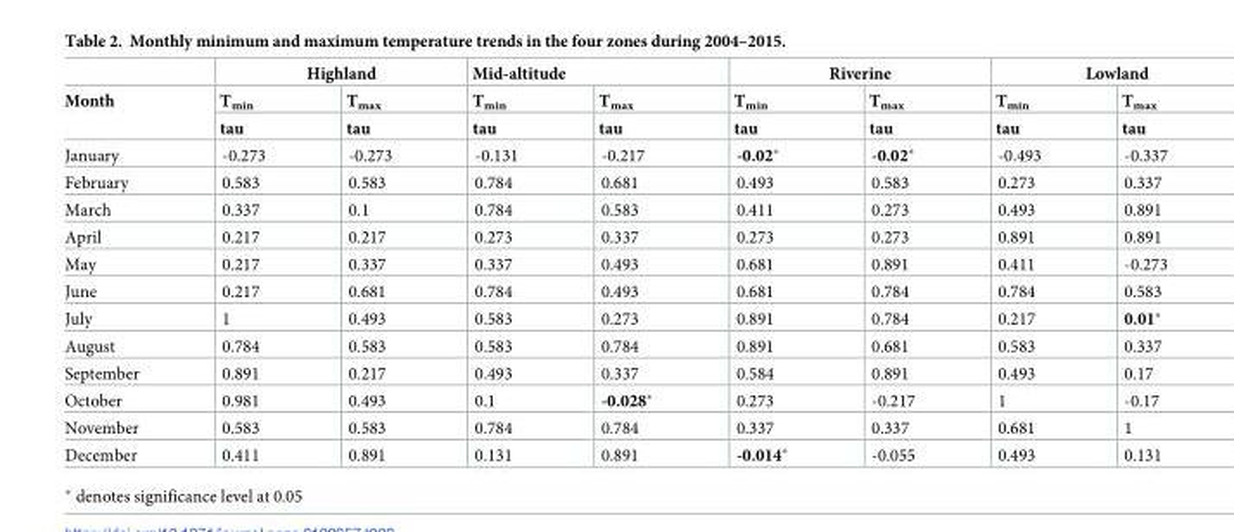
<table><thead><tr><td rowspan="3">Month</td><td colspan="2">Highland</td><td colspan="2">Mid-altitude</td><td colspan="2">Riverine</td><td colspan="2">Lowland</td></tr><tr><td rowspan="2">T<sub>min</sub> tau</td><td rowspan="2">T<sub>max</sub> tau</td><td rowspan="2">T<sub>min</sub> tau</td><td rowspan="2">T<sub>max</sub> tau</td><td rowspan="2">T<sub>min</sub> tau</td><td rowspan="2">T<sub>max</sub> tau</td><td rowspan="2">T<sub>min</sub> tau</td><td rowspan="2">T<sub>max</sub> tau</td></tr><tr></tr></thead><tbody><tr><td>January</td><td>-0.273</td><td>-0.273</td><td>-0.131</td><td>-0.217</td><td>-0.02*</td><td>-0.02*</td><td>-0.493</td><td>-0.337</td></tr><tr><td>February</td><td>0.583</td><td>0.583</td><td>0.784</td><td>0.681</td><td>0.493</td><td>0.583</td><td>0.273</td><td>0.337</td></tr><tr><td>March</td><td>0.337</td><td>0.1</td><td>0.784</td><td>0.583</td><td>0.411</td><td>0.273</td><td>0.493</td><td>0.891</td></tr><tr><td>April</td><td>0.217</td><td>0.217</td><td>0.273</td><td>0.337</td><td>0.273</td><td>0.273</td><td>0.891</td><td>0.891</td></tr><tr><td>May</td><td>0.217</td><td>0.337</td><td>0.337</td><td>0.493</td><td>0.681</td><td>0.891</td><td>0.411</td><td>-0.273</td></tr><tr><td>June</td><td>0.217</td><td>0.681</td><td>0.784</td><td>0.493</td><td>0.681</td><td>0.784</td><td>0.784</td><td>0.583</td></tr><tr><td>July</td><td>1</td><td>0.493</td><td>0.583</td><td>0.273</td><td>0.891</td><td>0.784</td><td>0.217</td><td>0.01*</td></tr><tr><td>August</td><td>0.784</td><td>0.583</td><td>0.583</td><td>0.784</td><td>0.891</td><td>0.681</td><td>0.583</td><td>0.337</td></tr><tr><td>September</td><td>0.891</td><td>0.217</td><td>0.493</td><td>0.337</td><td>0.584</td><td>0.891</td><td>0.493</td><td>0.17</td></tr><tr><td>October</td><td>0.981</td><td>0.493</td><td>0.1</td><td>-0.028*</td><td>0.273</td><td>-0.217</td><td>1</td><td>-0.17</td></tr><tr><td>November</td><td>0.583</td><td>0.583</td><td>0.784</td><td>0.784</td><td>0.337</td><td>0.337</td><td>0.681</td><td>1</td></tr><tr><td>December</td><td>0.411</td><td>0.891</td><td>0.131</td><td>0.891</td><td>-0.014*</td><td>-0.055</td><td>0.493</td><td>0.131</td></tr></tbody></table>